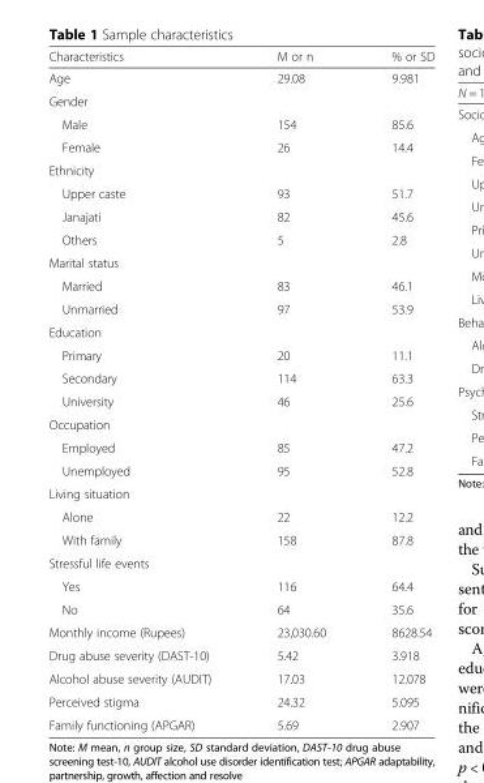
<table><thead><tr><td>Characteristics</td><td>M or n</td><td>% or SD</td></tr></thead><tbody><tr><td>Age</td><td>29.08</td><td>9.981</td></tr><tr><td colspan="3">Gender</td></tr><tr><td>Male</td><td>154</td><td>85.6</td></tr><tr><td>Female</td><td>26</td><td>14.4</td></tr><tr><td colspan="3">Ethnicity</td></tr><tr><td>Upper caste</td><td>93</td><td>51.7</td></tr><tr><td>Janajati</td><td>82</td><td>45.6</td></tr><tr><td>Others</td><td>5</td><td>2.8</td></tr><tr><td colspan="3">Marital status</td></tr><tr><td>Married</td><td>83</td><td>46.1</td></tr><tr><td>Unmarried</td><td>97</td><td>53.9</td></tr><tr><td colspan="3">Education</td></tr><tr><td>Primary</td><td>20</td><td>11.1</td></tr><tr><td>Secondary</td><td>114</td><td>63.3</td></tr><tr><td>University</td><td>46</td><td>25.6</td></tr><tr><td colspan="3">Occupation</td></tr><tr><td>Employed</td><td>85</td><td>47.2</td></tr><tr><td>Unemployed</td><td>95</td><td>52.8</td></tr><tr><td colspan="3">Living situation</td></tr><tr><td>Alone</td><td>22</td><td>12.2</td></tr><tr><td>With family</td><td>158</td><td>87.8</td></tr><tr><td colspan="3">Stressful life events</td></tr><tr><td>Yes</td><td>116</td><td>64.4</td></tr><tr><td>No</td><td>64</td><td>35.6</td></tr><tr><td>Monthly income (Rupees)</td><td>23,030.60</td><td>8628.54</td></tr><tr><td>Drug abuse severity (DAST-10)</td><td>5.42</td><td>3.918</td></tr><tr><td>Alcohol abuse severity (AUDIT)</td><td>17.03</td><td>12.078</td></tr><tr><td>Perceived stigma</td><td>24.32</td><td>5.095</td></tr><tr><td>Family functioning (APGAR)</td><td>5.69</td><td>2.907</td></tr></tbody></table>